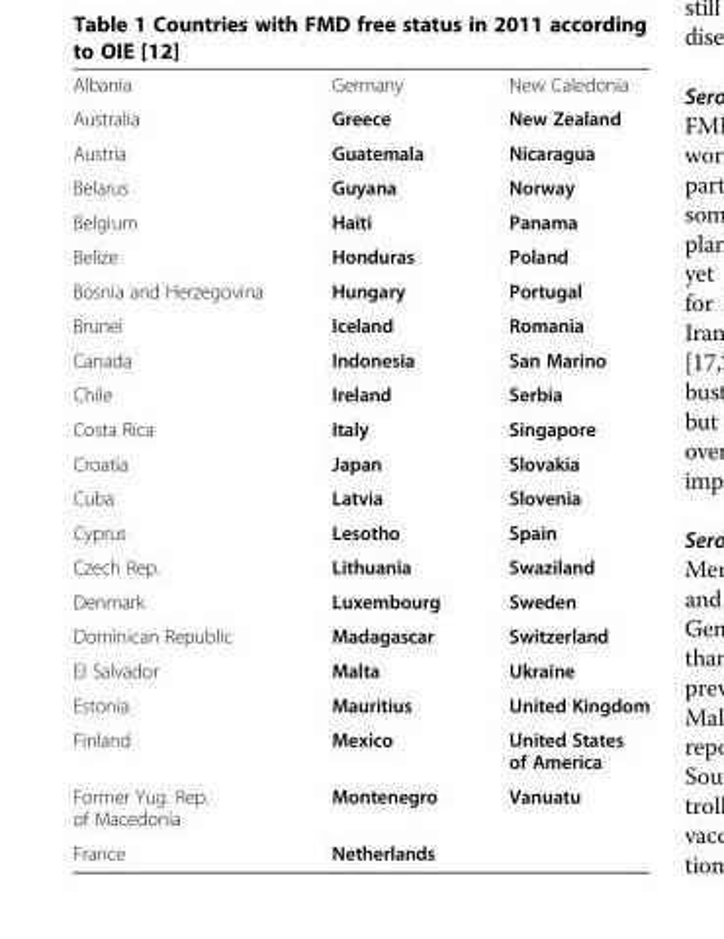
<table><tbody><tr><td>Albania</td><td>Germany</td><td>New Caledonia</td></tr><tr><td>Australia</td><td>Greece</td><td>New Zealand</td></tr><tr><td>Austria</td><td>Guatemala</td><td>Nicaragua</td></tr><tr><td>Belarus</td><td>Guyana</td><td>Norway</td></tr><tr><td>Belgium</td><td>Haiti</td><td>Panama</td></tr><tr><td>Belize</td><td>Honduras</td><td>Poland</td></tr><tr><td>Bosnia and Herzegovina</td><td>Hungary</td><td>Portugal</td></tr><tr><td>Brunei</td><td>Iceland</td><td>Romania</td></tr><tr><td>Canada</td><td>Indonesia</td><td>San Marino</td></tr><tr><td>Chile</td><td>Ireland</td><td>Serbia</td></tr><tr><td>Costa Rica</td><td>Italy</td><td>Singapore</td></tr><tr><td>Croatia</td><td>Japan</td><td>Slovakia</td></tr><tr><td>Cuba</td><td>Latvia</td><td>Slovenia</td></tr><tr><td>Cyprus</td><td>Lesotho</td><td>Spain</td></tr><tr><td>Czech Rep.</td><td>Lithuania</td><td>Swaziland</td></tr><tr><td>Denmark</td><td>Luxembourg</td><td>Sweden</td></tr><tr><td>Dominican Republic</td><td>Madagascar</td><td>Switzerland</td></tr><tr><td>El Salvador</td><td>Malta</td><td>Ukraine</td></tr><tr><td>Estonia</td><td>Mauritius</td><td>United Kingdom</td></tr><tr><td>Finland</td><td>Mexico</td><td>United States of America</td></tr><tr><td>Former Yug. Rep. of Macedonia</td><td>Montenegro</td><td>Vanuatu</td></tr><tr><td>France</td><td>Netherlands</td><td></td></tr></tbody></table>